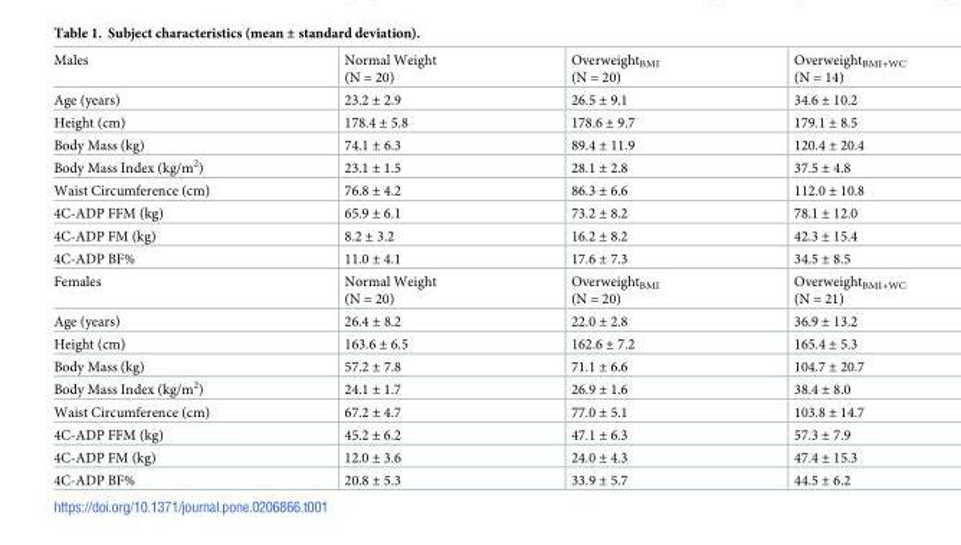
<table><tbody><tr><td>Males</td><td>Normal Weight (N = 20)</td><td>Overweight<sub>BMI</sub> (N = 20)</td><td>Overweight<sub>BMI+WC</sub> (N = 14)</td></tr><tr><td>Age (years)</td><td>23.2 ± 2.9</td><td>26.5 ± 9.1</td><td>34.6 ± 10.2</td></tr><tr><td>Height (cm)</td><td>178.4 ± 5.8</td><td>178.6 ± 9.7</td><td>179.1 ± 8.5</td></tr><tr><td>Body Mass (kg)</td><td>74.1 ± 6.3</td><td>89.4 ± 11.9</td><td>120.4 ± 20.4</td></tr><tr><td>Body Mass Index (kg/m<sup>2</sup>)</td><td>23.1 ± 1.5</td><td>28.1 ± 2.8</td><td>37.5 ± 4.8</td></tr><tr><td>Waist Circumference (cm)</td><td>76.8 ± 4.2</td><td>86.3 ± 6.6</td><td>112.0 ± 10.8</td></tr><tr><td>4C-ADP FFM (kg)</td><td>65.9 ± 6.1</td><td>73.2 ± 8.2</td><td>78.1 ± 12.0</td></tr><tr><td>4C-ADP FM (kg)</td><td>8.2 ± 3.2</td><td>16.2 ± 8.2</td><td>42.3 ± 15.4</td></tr><tr><td>4C-ADP BF%</td><td>11.0 ± 4.1</td><td>17.6 ± 7.3</td><td>34.5 ± 8.5</td></tr><tr><td>Females</td><td>Normal Weight (N = 20)</td><td>Overweight<sub>BMI</sub> (N = 20)</td><td>Overweight<sub>BMI+WC</sub> (N = 21)</td></tr><tr><td>Age (years)</td><td>26.4 ± 8.2</td><td>22.0 ± 2.8</td><td>36.9 ± 13.2</td></tr><tr><td>Height (cm)</td><td>163.6 ± 6.5</td><td>162.6 ± 7.2</td><td>165.4 ± 5.3</td></tr><tr><td>Body Mass (kg)</td><td>57.2 ± 7.8</td><td>71.1 ± 6.6</td><td>104.7 ± 20.7</td></tr><tr><td>Body Mass Index (kg/m<sup>2</sup>)</td><td>24.1 ± 1.7</td><td>26.9 ± 1.6</td><td>38.4 ± 8.0</td></tr><tr><td>Waist Circumference (cm)</td><td>67.2 ± 4.7</td><td>77.0 ± 5.1</td><td>103.8 ± 14.7</td></tr><tr><td>4C-ADP FFM (kg)</td><td>45.2 ± 6.2</td><td>47.1 ± 6.3</td><td>57.3 ± 7.9</td></tr><tr><td>4C-ADP FM (kg)</td><td>12.0 ± 3.6</td><td>24.0 ± 4.3</td><td>47.4 ± 15.3</td></tr><tr><td>4C-ADP BF%</td><td>20.8 ± 5.3</td><td>33.9 ± 5.7</td><td>44.5 ± 6.2</td></tr></tbody></table>